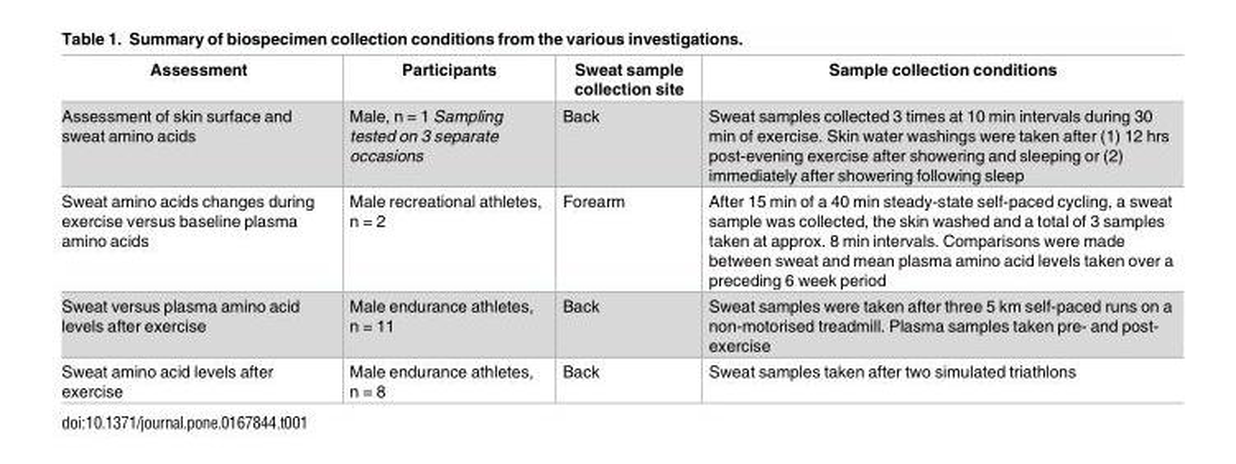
<table><thead><tr><td>Assessment</td><td>Participants</td><td>Sweat sample collection site</td><td>Sample collection conditions</td></tr></thead><tbody><tr><td>Assessment of skin surface and sweat amino acids</td><td>Male, n = 1 Sampling tested on 3 separate occasions</td><td>Back</td><td>Sweat samples collected 3 times at 10 min intervals during 30 min of exercise. Skin water washings were taken after (1) 12 hrs post-evening exercise after showering and sleeping or (2) immediately after showering following sleep</td></tr><tr><td>Sweat amino acids changes during exercise versus baseline plasma amino acids</td><td>Male recreational athletes, n = 2</td><td>Forearm</td><td>After 15 min of a 40 min steady-state self-paced cycling, a sweat sample was collected, the skin washed and a total of 3 samples taken at approx. 8 min intervals. Comparisons were made between sweat and mean plasma amino acid levels taken over a preceding 6 week period</td></tr><tr><td>Sweat versus plasma amino acid levels after exercise</td><td>Male endurance athletes, n = 11</td><td>Back</td><td>Sweat samples were taken after three 5 km self-paced runs on a non-motorised treadmill. Plasma samples taken pre- and post- exercise</td></tr><tr><td>Sweat amino acid levels after exercise</td><td>Male endurance athletes, n = 8</td><td>Back</td><td>Sweat samples taken after two simulated triathlons</td></tr></tbody></table>